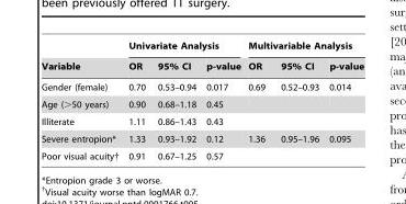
<table><thead><tr><td rowspan="2">Variable</td><td colspan="3">Univariate Analysis</td><td colspan="3">Multivariable Analysis</td></tr><tr><td>OR</td><td>95% CI</td><td>p-value</td><td>OR</td><td>95% CI</td><td>p-value</td></tr></thead><tbody><tr><td>Gender (female)</td><td>0.70</td><td>0.53–0.94</td><td>0.017</td><td>0.69</td><td>0.52–0.93</td><td>0.014</td></tr><tr><td>Age (&gt;50 years)</td><td>0.90</td><td>0.68–1.18</td><td>0.45</td><td></td><td></td><td></td></tr><tr><td>Illiterate</td><td>1.11</td><td>0.86–1.43</td><td>0.43</td><td></td><td></td><td></td></tr><tr><td>Severe entropion*</td><td>1.33</td><td>0.93–1.92</td><td>0.12</td><td>1.36</td><td>0.95–1.96</td><td>0.095</td></tr><tr><td>Poor visual acuity†</td><td>0.91</td><td>0.67–1.25</td><td>0.57</td><td></td><td></td><td></td></tr></tbody></table>